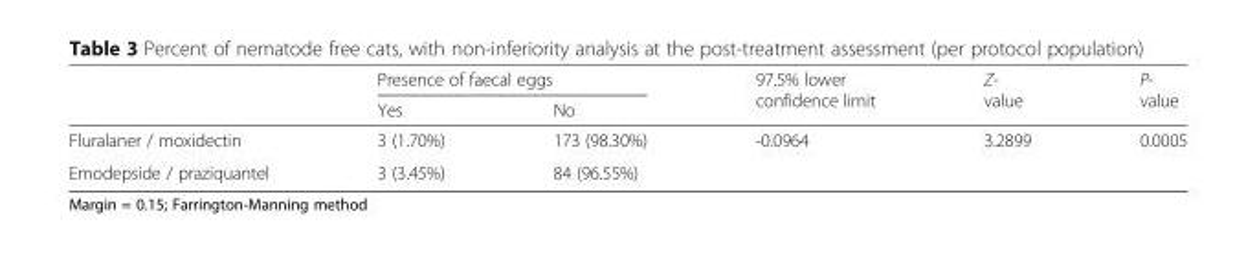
<table><thead><tr><td rowspan="2"></td><td colspan="2">Presence of faecal eggs</td><td rowspan="2">97.5% lower confidence limit</td><td rowspan="2">Z- value</td><td rowspan="2">P- value</td></tr><tr><td>Yes</td><td>No</td></tr></thead><tbody><tr><td>Fluralaner / moxidectin</td><td>3 (1.70%)</td><td>173 (98.30%)</td><td rowspan="2">-0.0964</td><td rowspan="2">3.2899</td><td rowspan="2">0.0005</td></tr><tr><td>Emodepside / praziquantel</td><td>3 (3.45%)</td><td>84 (96.55%)</td></tr></tbody></table>